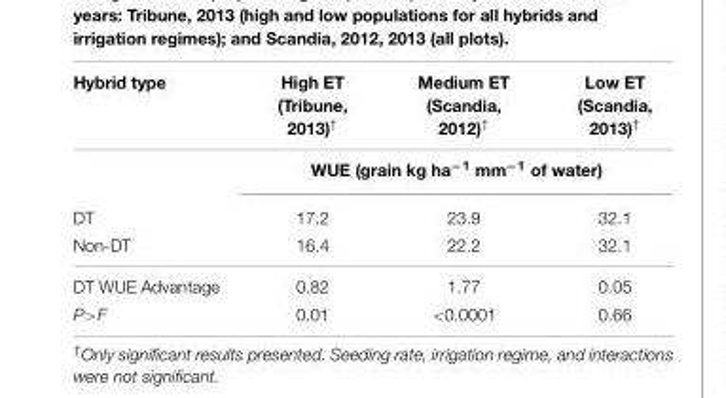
<table><thead><tr><td>Hybrid type</td><td>High ET (Tribune, 2013)†</td><td>Medium ET (Scandia, 2012)†</td><td>Low ET (Scandia, 2013)†</td></tr></thead><tbody><tr><td></td><td colspan="3">WUE (grain kg ha<sup>−1</sup> mm<sup>−1</sup> of water)</td></tr><tr><td>DT</td><td>17.2</td><td>23.9</td><td>32.1</td></tr><tr><td>Non-DT</td><td>16.4</td><td>22.2</td><td>32.1</td></tr><tr><td>DT WUE Advantage</td><td>0.82</td><td>1.77</td><td>0.05</td></tr><tr><td>P&gt;F</td><td>0.01</td><td>&lt;0.0001</td><td>0.66</td></tr></tbody></table>